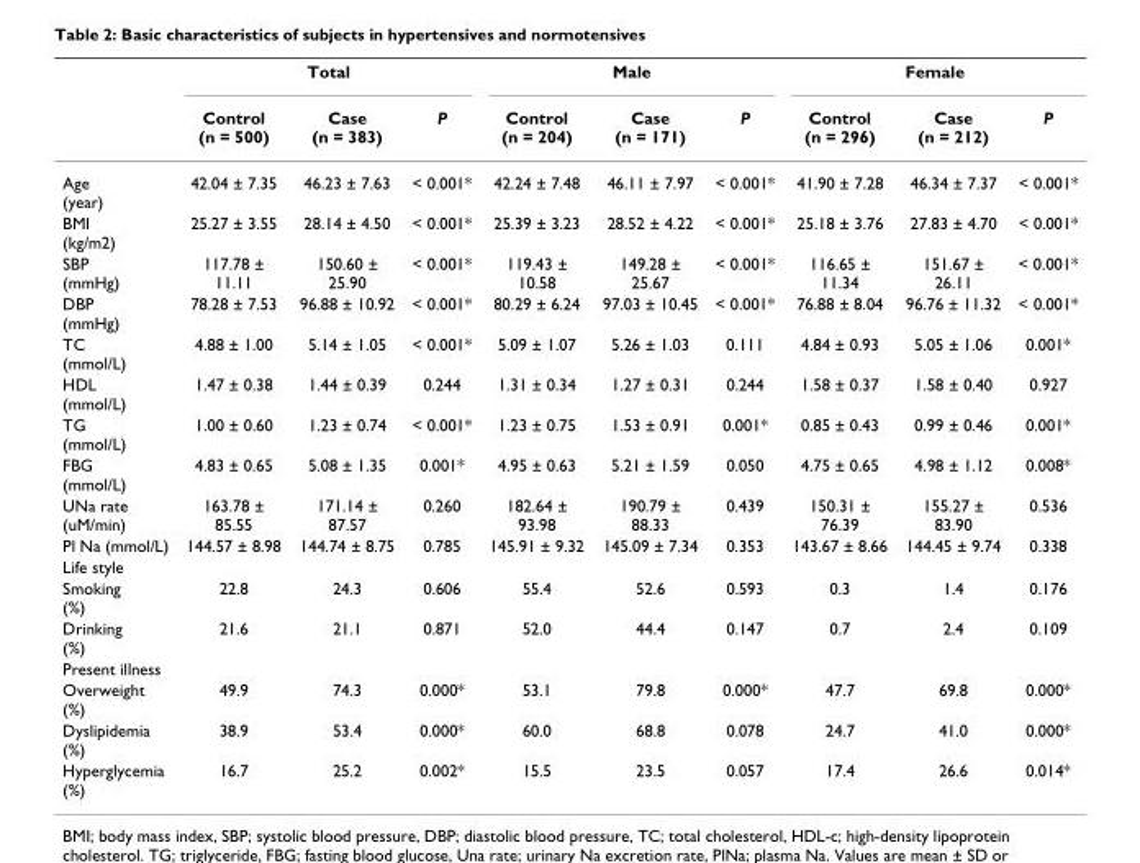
<table><thead><tr><td rowspan="2"></td><td colspan="3">Total</td><td colspan="3">Male</td><td colspan="3">Female</td></tr><tr><td>Control (n = 500)</td><td>Case (n = 383)</td><td>P</td><td>Control (n = 204)</td><td>Case (n = 171)</td><td>P</td><td>Control (n = 296)</td><td>Case (n = 212)</td><td>P</td></tr></thead><tbody><tr><td>Age (year)</td><td>42.04 ± 7.35</td><td>46.23 ± 7.63</td><td>&lt; 0.001*</td><td>42.24 ± 7.48</td><td>46.11 ± 7.97</td><td>&lt; 0.001*</td><td>41.90 ± 7.28</td><td>46.34 ± 7.37</td><td>&lt; 0.001*</td></tr><tr><td>BMI (kg/m2)</td><td>25.27 ± 3.55</td><td>28.14 ± 4.50</td><td>&lt; 0.001*</td><td>25.39 ± 3.23</td><td>28.52 ± 4.22</td><td>&lt; 0.001*</td><td>25.18 ± 3.76</td><td>27.83 ± 4.70</td><td>&lt; 0.001*</td></tr><tr><td>SBP (mmHg)</td><td>117.78 ± 11.11</td><td>150.60 ± 25.90</td><td>&lt; 0.001*</td><td>119.43 ± 10.58</td><td>149.28 ± 25.67</td><td>&lt; 0.001*</td><td>116.65 ± 11.34</td><td>151.67 ± 26.11</td><td>&lt; 0.001*</td></tr><tr><td>DBP (mmHg)</td><td>78.28 ± 7.53</td><td>96.88 ± 10.92</td><td>&lt; 0.001*</td><td>80.29 ± 6.24</td><td>97.03 ± 10.45</td><td>&lt; 0.001*</td><td>76.88 ± 8.04</td><td>96.76 ± 11.32</td><td>&lt; 0.001*</td></tr><tr><td>TC (mmol/L)</td><td>4.88 ± 1.00</td><td>5.14 ± 1.05</td><td>&lt; 0.001*</td><td>5.09 ± 1.07</td><td>5.26 ± 1.03</td><td>0.111</td><td>4.84 ± 0.93</td><td>5.05 ± 1.06</td><td>0.001*</td></tr><tr><td>HDL (mmol/L)</td><td>1.47 ± 0.38</td><td>1.44 ± 0.39</td><td>0.244</td><td>1.31 ± 0.34</td><td>1.27 ± 0.31</td><td>0.244</td><td>1.58 ± 0.37</td><td>1.58 ± 0.40</td><td>0.927</td></tr><tr><td>TG (mmol/L)</td><td>1.00 ± 0.60</td><td>1.23 ± 0.74</td><td>&lt; 0.001*</td><td>1.23 ± 0.75</td><td>1.53 ± 0.91</td><td>0.001*</td><td>0.85 ± 0.43</td><td>0.99 ± 0.46</td><td>0.001*</td></tr><tr><td>FBG (mmol/L)</td><td>4.83 ± 0.65</td><td>5.08 ± 1.35</td><td>0.001*</td><td>4.95 ± 0.63</td><td>5.21 ± 1.59</td><td>0.050</td><td>4.75 ± 0.65</td><td>4.98 ± 1.12</td><td>0.008*</td></tr><tr><td>UNa rate (uM/min)</td><td>163.78 ± 85.55</td><td>171.14 ± 87.57</td><td>0.260</td><td>182.64 ± 93.98</td><td>190.79 ± 88.33</td><td>0.439</td><td>150.31 ± 76.39</td><td>155.27 ± 83.90</td><td>0.536</td></tr><tr><td>Pl Na (mmol/L)</td><td>144.57 ± 8.98</td><td>144.74 ± 8.75</td><td>0.785</td><td>145.91 ± 9.32</td><td>145.09 ± 7.34</td><td>0.353</td><td>143.67 ± 8.66</td><td>144.45 ± 9.74</td><td>0.338</td></tr><tr><td colspan="10">Life style</td></tr><tr><td>Smoking (%)</td><td>22.8</td><td>24.3</td><td>0.606</td><td>55.4</td><td>52.6</td><td>0.593</td><td>0.3</td><td>1.4</td><td>0.176</td></tr><tr><td>Drinking (%)</td><td>21.6</td><td>21.1</td><td>0.871</td><td>52.0</td><td>44.4</td><td>0.147</td><td>0.7</td><td>2.4</td><td>0.109</td></tr><tr><td colspan="10">Present illness</td></tr><tr><td>Overweight (%)</td><td>49.9</td><td>74.3</td><td>0.000*</td><td>53.1</td><td>79.8</td><td>0.000*</td><td>47.7</td><td>69.8</td><td>0.000*</td></tr><tr><td>Dyslipidemia (%)</td><td>38.9</td><td>53.4</td><td>0.000*</td><td>60.0</td><td>68.8</td><td>0.078</td><td>24.7</td><td>41.0</td><td>0.000*</td></tr><tr><td>Hyperglycemia (%)</td><td>16.7</td><td>25.2</td><td>0.002*</td><td>15.5</td><td>23.5</td><td>0.057</td><td>17.4</td><td>26.6</td><td>0.014*</td></tr></tbody></table>